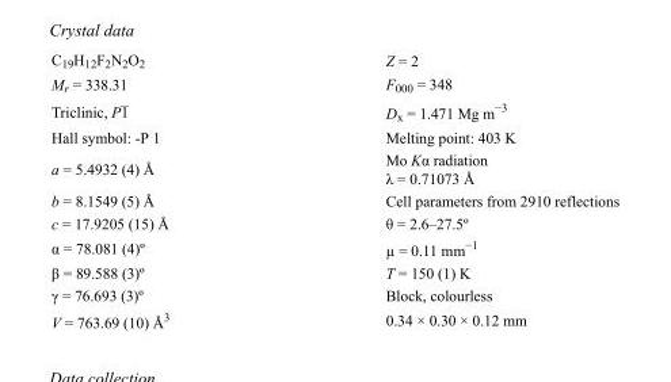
<table><tbody><tr><td>C<sub>19</sub>H<sub>12</sub>F<sub>2</sub>N<sub>2</sub>O<sub>2</sub></td><td>Z = 2</td></tr><tr><td>M<sub>r</sub> = 338.31</td><td>F000 = 348</td></tr><tr><td>Triclinic, P1</td><td>D<sub>x</sub> = 1.471 Mg m<sup>−3</sup></td></tr><tr><td>Hall symbol: -P 1</td><td>Melting point: 403 K</td></tr><tr><td>a = 5.4932 (4) Å</td><td>Mo Kα radiation λ = 0.71073 Å</td></tr><tr><td>b = 8.1549 (5) Å</td><td>Cell parameters from 2910 reflections</td></tr><tr><td>c = 17.9205 (15) Å</td><td>θ = 2.6–27.5º</td></tr><tr><td>α = 78.081 (4)º</td><td>µ = 0.11 mm<sup>−1</sup></td></tr><tr><td>β = 89.588 (3)º</td><td>T = 150 (1) K</td></tr><tr><td>γ = 76.693 (3)º</td><td>Block, colourless</td></tr><tr><td>V = 763.69 (10) Å<sup>3</sup></td><td>0.34 × 0.30 × 0.12 mm</td></tr></tbody></table>